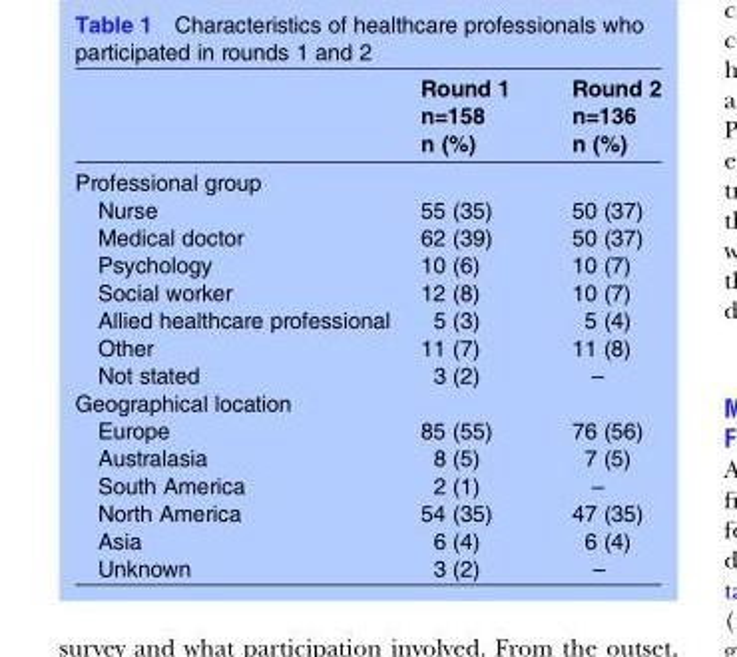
<table><thead><tr><td></td><td>Round 1 n=158 n (%)</td><td>Round 2 n=136 n (%)</td></tr></thead><tbody><tr><td colspan="3">Professional group</td></tr><tr><td>Nurse</td><td>55 (35)</td><td>50 (37)</td></tr><tr><td>Medical doctor</td><td>62 (39)</td><td>50 (37)</td></tr><tr><td>Psychology</td><td>10 (6)</td><td>10 (7)</td></tr><tr><td>Social worker</td><td>12 (8)</td><td>10 (7)</td></tr><tr><td>Allied healthcare professional</td><td>5 (3)</td><td>5 (4)</td></tr><tr><td>Other</td><td>11 (7)</td><td>11 (8)</td></tr><tr><td>Not stated</td><td>3 (2)</td><td>–</td></tr><tr><td colspan="3">Geographical location</td></tr><tr><td>Europe</td><td>85 (55)</td><td>76 (56)</td></tr><tr><td>Australasia</td><td>8 (5)</td><td>7 (5)</td></tr><tr><td>South America</td><td>2 (1)</td><td>–</td></tr><tr><td>North America</td><td>54 (35)</td><td>47 (35)</td></tr><tr><td>Asia</td><td>6 (4)</td><td>6 (4)</td></tr><tr><td>Unknown</td><td>3 (2)</td><td>–</td></tr></tbody></table>